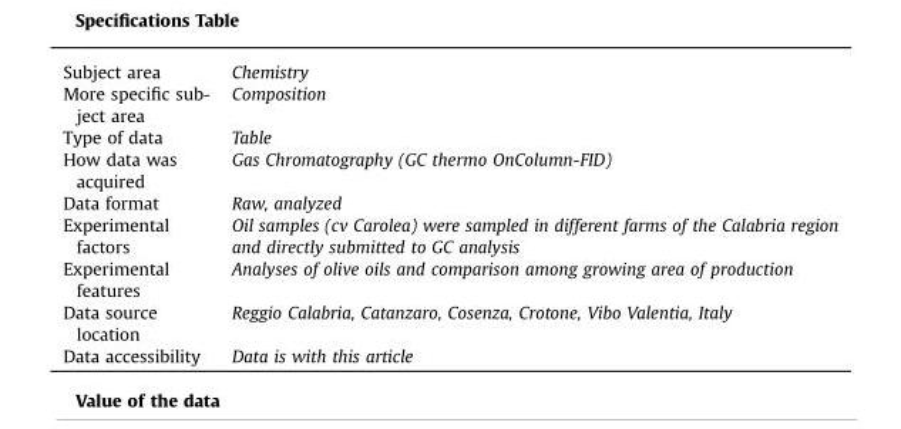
<table><tbody><tr><td>Subject area</td><td>Chemistry</td></tr><tr><td>More specific sub- ject area</td><td>Composition</td></tr><tr><td>Type of data</td><td>Table</td></tr><tr><td>How data was acquired</td><td>Gas Chromatography (GC thermo OnColumn-FID)</td></tr><tr><td>Data format</td><td>Raw, analyzed</td></tr><tr><td>Experimental factors</td><td>Oil samples (cv Carolea) were sampled in different farms of the Calabria region and directly submitted to GC analysis</td></tr><tr><td>Experimental features</td><td>Analyses of olive oils and comparison among growing area of production</td></tr><tr><td>Data source location</td><td>Reggio Calabria, Catanzaro, Cosenza, Crotone, Vibo Valentia, Italy</td></tr><tr><td>Data accessibility</td><td>Data is with this article</td></tr></tbody></table>